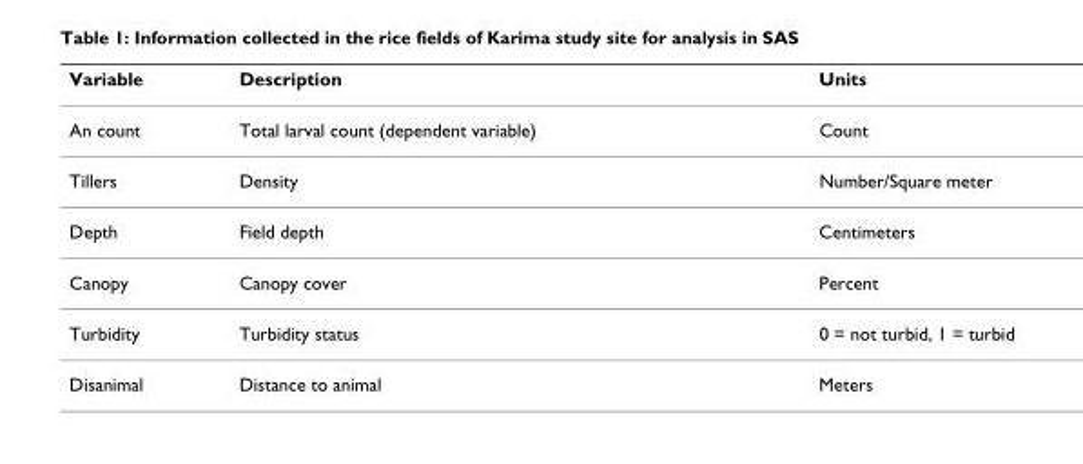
<table><thead><tr><td>Variable</td><td>Description</td><td>Units</td></tr></thead><tbody><tr><td>An count</td><td>Total larval count (dependent variable)</td><td>Count</td></tr><tr><td>Tillers</td><td>Density</td><td>Number/Square meter</td></tr><tr><td>Depth</td><td>Field depth</td><td>Centimeters</td></tr><tr><td>Canopy</td><td>Canopy cover</td><td>Percent</td></tr><tr><td>Turbidity</td><td>Turbidity status</td><td>0 = not turbid, 1 = turbid</td></tr><tr><td>Disanimal</td><td>Distance to animal</td><td>Meters</td></tr></tbody></table>